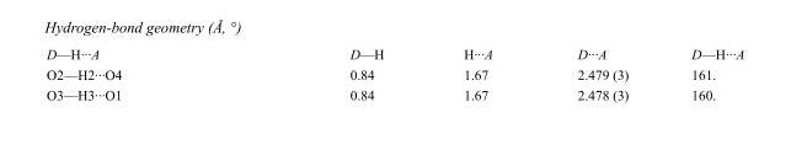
<table><tbody><tr><td>D—H···A</td><td>D—H</td><td>H···A</td><td>D···A</td><td>D—H···A</td></tr><tr><td>O2—H2···O4</td><td>0.84</td><td>1.67</td><td>2.479 (3)</td><td>161.</td></tr><tr><td>O3—H3···O1</td><td>0.84</td><td>1.67</td><td>2.478 (3)</td><td>160.</td></tr></tbody></table>